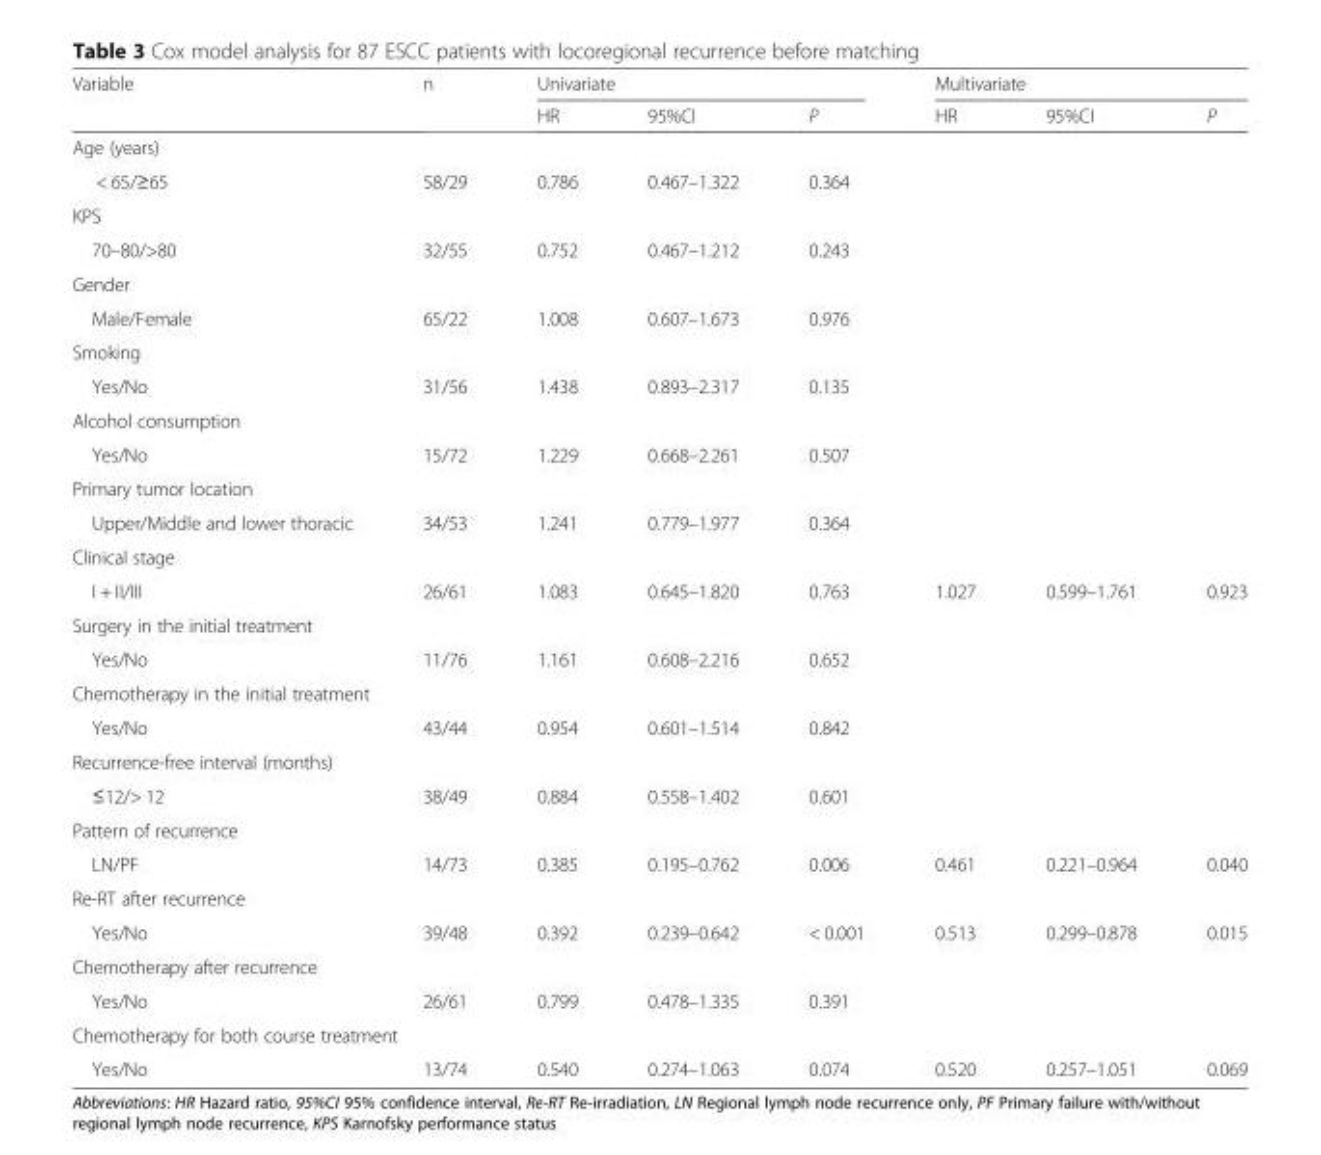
<table><thead><tr><td rowspan="2">Variable</td><td rowspan="2">n</td><td colspan="3">Univariate</td><td colspan="3">Multivariate</td></tr><tr><td>HR</td><td>95%CI</td><td>P</td><td>HR</td><td>95%CI</td><td>P</td></tr></thead><tbody><tr><td colspan="8">Age (years)</td></tr><tr><td>&lt; 65/≥65</td><td>58/29</td><td>0.786</td><td>0.467–1.322</td><td>0.364</td><td></td><td></td><td></td></tr><tr><td colspan="8">KPS</td></tr><tr><td>70–80/&gt;80</td><td>32/55</td><td>0.752</td><td>0.467–1.212</td><td>0.243</td><td></td><td></td><td></td></tr><tr><td colspan="8">Gender</td></tr><tr><td>Male/Female</td><td>65/22</td><td>1.008</td><td>0.607–1.673</td><td>0.976</td><td></td><td></td><td></td></tr><tr><td colspan="8">Smoking</td></tr><tr><td>Yes/No</td><td>31/56</td><td>1.438</td><td>0.893–2.317</td><td>0.135</td><td></td><td></td><td></td></tr><tr><td colspan="8">Alcohol consumption</td></tr><tr><td>Yes/No</td><td>15/72</td><td>1.229</td><td>0.668–2.261</td><td>0.507</td><td></td><td></td><td></td></tr><tr><td colspan="8">Primary tumor location</td></tr><tr><td>Upper/Middle and lower thoracic</td><td>34/53</td><td>1.241</td><td>0.779–1.977</td><td>0.364</td><td></td><td></td><td></td></tr><tr><td colspan="8">Clinical stage</td></tr><tr><td>I + II/III</td><td>26/61</td><td>1.083</td><td>0.645–1.820</td><td>0.763</td><td>1.027</td><td>0.599–1.761</td><td>0.923</td></tr><tr><td colspan="8">Surgery in the initial treatment</td></tr><tr><td>Yes/No</td><td>11/76</td><td>1.161</td><td>0.608–2.216</td><td>0.652</td><td></td><td></td><td></td></tr><tr><td colspan="8">Chemotherapy in the initial treatment</td></tr><tr><td>Yes/No</td><td>43/44</td><td>0.954</td><td>0.601–1.514</td><td>0.842</td><td></td><td></td><td></td></tr><tr><td colspan="8">Recurrence-free interval (months)</td></tr><tr><td>≤12/&gt; 12</td><td>38/49</td><td>0.884</td><td>0.558–1.402</td><td>0.601</td><td></td><td></td><td></td></tr><tr><td colspan="8">Pattern of recurrence</td></tr><tr><td>LN/PF</td><td>14/73</td><td>0.385</td><td>0.195–0.762</td><td>0.006</td><td>0.461</td><td>0.221–0.964</td><td>0.040</td></tr><tr><td colspan="8">Re-RT after recurrence</td></tr><tr><td>Yes/No</td><td>39/48</td><td>0.392</td><td>0.239–0.642</td><td>&lt; 0.001</td><td>0.513</td><td>0.299–0.878</td><td>0.015</td></tr><tr><td colspan="8">Chemotherapy after recurrence</td></tr><tr><td>Yes/No</td><td>26/61</td><td>0.799</td><td>0.478–1.335</td><td>0.391</td><td></td><td></td><td></td></tr><tr><td colspan="8">Chemotherapy for both course treatment</td></tr><tr><td>Yes/No</td><td>13/74</td><td>0.540</td><td>0.274–1.063</td><td>0.074</td><td>0.520</td><td>0.257–1.051</td><td>0.069</td></tr></tbody></table>